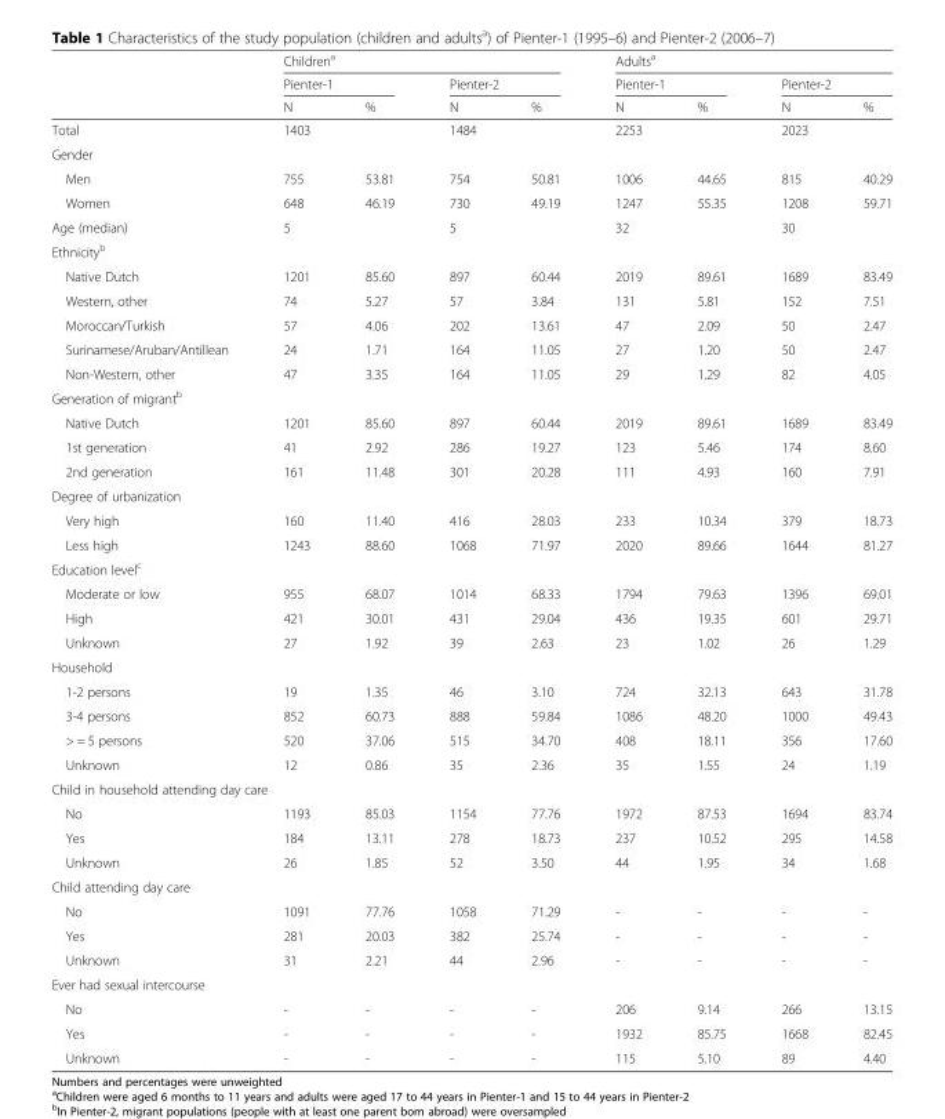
<table><thead><tr><td rowspan="3"></td><td colspan="4">Children<sup>a</sup></td><td colspan="4">Adults<sup>a</sup></td></tr><tr><td colspan="2">Pienter-1</td><td colspan="2">Pienter-2</td><td colspan="2">Pienter-1</td><td colspan="2">Pienter-2</td></tr><tr><td>N</td><td>%</td><td>N</td><td>%</td><td>N</td><td>%</td><td>N</td><td>%</td></tr></thead><tbody><tr><td>Total</td><td>1403</td><td></td><td>1484</td><td></td><td>2253</td><td></td><td>2023</td><td></td></tr><tr><td colspan="9">Gender</td></tr><tr><td>Men</td><td>755</td><td>53.81</td><td>754</td><td>50.81</td><td>1006</td><td>44.65</td><td>815</td><td>40.29</td></tr><tr><td>Women</td><td>648</td><td>46.19</td><td>730</td><td>49.19</td><td>1247</td><td>55.35</td><td>1208</td><td>59.71</td></tr><tr><td>Age (median)</td><td>5</td><td></td><td>5</td><td></td><td>32</td><td></td><td>30</td><td></td></tr><tr><td colspan="9">Ethnicity<sup>b</sup></td></tr><tr><td>Native Dutch</td><td>1201</td><td>85.60</td><td>897</td><td>60.44</td><td>2019</td><td>89.61</td><td>1689</td><td>83.49</td></tr><tr><td>Western, other</td><td>74</td><td>5.27</td><td>57</td><td>3.84</td><td>131</td><td>5.81</td><td>152</td><td>7.51</td></tr><tr><td>Moroccan/Turkish</td><td>57</td><td>4.06</td><td>202</td><td>13.61</td><td>47</td><td>2.09</td><td>50</td><td>2.47</td></tr><tr><td>Surinamese/Aruban/Antillean</td><td>24</td><td>1.71</td><td>164</td><td>11.05</td><td>27</td><td>1.20</td><td>50</td><td>2.47</td></tr><tr><td>Non-Western, other</td><td>47</td><td>3.35</td><td>164</td><td>11.05</td><td>29</td><td>1.29</td><td>82</td><td>4.05</td></tr><tr><td colspan="9">Generation of migrant<sup>b</sup></td></tr><tr><td>Native Dutch</td><td>1201</td><td>85.60</td><td>897</td><td>60.44</td><td>2019</td><td>89.61</td><td>1689</td><td>83.49</td></tr><tr><td>1st generation</td><td>41</td><td>2.92</td><td>286</td><td>19.27</td><td>123</td><td>5.46</td><td>174</td><td>8.60</td></tr><tr><td>2nd generation</td><td>161</td><td>11.48</td><td>301</td><td>20.28</td><td>111</td><td>4.93</td><td>160</td><td>7.91</td></tr><tr><td colspan="9">Degree of urbanization</td></tr><tr><td>Very high</td><td>160</td><td>11.40</td><td>416</td><td>28.03</td><td>233</td><td>10.34</td><td>379</td><td>18.73</td></tr><tr><td>Less high</td><td>1243</td><td>88.60</td><td>1068</td><td>71.97</td><td>2020</td><td>89.66</td><td>1644</td><td>81.27</td></tr><tr><td colspan="9">Education level<sup>c</sup></td></tr><tr><td>Moderate or low</td><td>955</td><td>68.07</td><td>1014</td><td>68.33</td><td>1794</td><td>79.63</td><td>1396</td><td>69.01</td></tr><tr><td>High</td><td>421</td><td>30.01</td><td>431</td><td>29.04</td><td>436</td><td>19.35</td><td>601</td><td>29.71</td></tr><tr><td>Unknown</td><td>27</td><td>1.92</td><td>39</td><td>2.63</td><td>23</td><td>1.02</td><td>26</td><td>1.29</td></tr><tr><td colspan="9">Household</td></tr><tr><td>1-2 persons</td><td>19</td><td>1.35</td><td>46</td><td>3.10</td><td>724</td><td>32.13</td><td>643</td><td>31.78</td></tr><tr><td>3-4 persons</td><td>852</td><td>60.73</td><td>888</td><td>59.84</td><td>1086</td><td>48.20</td><td>1000</td><td>49.43</td></tr><tr><td>&gt; = 5 persons</td><td>520</td><td>37.06</td><td>515</td><td>34.70</td><td>408</td><td>18.11</td><td>356</td><td>17.60</td></tr><tr><td>Unknown</td><td>12</td><td>0.86</td><td>35</td><td>2.36</td><td>35</td><td>1.55</td><td>24</td><td>1.19</td></tr><tr><td colspan="9">Child in household attending day care</td></tr><tr><td>No</td><td>1193</td><td>85.03</td><td>1154</td><td>77.76</td><td>1972</td><td>87.53</td><td>1694</td><td>83.74</td></tr><tr><td>Yes</td><td>184</td><td>13.11</td><td>278</td><td>18.73</td><td>237</td><td>10.52</td><td>295</td><td>14.58</td></tr><tr><td>Unknown</td><td>26</td><td>1.85</td><td>52</td><td>3.50</td><td>44</td><td>1.95</td><td>34</td><td>1.68</td></tr><tr><td colspan="9">Child attending day care</td></tr><tr><td>No</td><td>1091</td><td>77.76</td><td>1058</td><td>71.29</td><td>-</td><td>-</td><td>-</td><td>-</td></tr><tr><td>Yes</td><td>281</td><td>20.03</td><td>382</td><td>25.74</td><td>-</td><td>-</td><td>-</td><td>-</td></tr><tr><td>Unknown</td><td>31</td><td>2.21</td><td>44</td><td>2.96</td><td>-</td><td>-</td><td>-</td><td>-</td></tr><tr><td colspan="9">Ever had sexual intercourse</td></tr><tr><td>No</td><td>-</td><td>-</td><td>-</td><td>-</td><td>206</td><td>9.14</td><td>266</td><td>13.15</td></tr><tr><td>Yes</td><td>-</td><td>-</td><td>-</td><td>-</td><td>1932</td><td>85.75</td><td>1668</td><td>82.45</td></tr><tr><td>Unknown</td><td>-</td><td>-</td><td>-</td><td>-</td><td>115</td><td>5.10</td><td>89</td><td>4.40</td></tr></tbody></table>